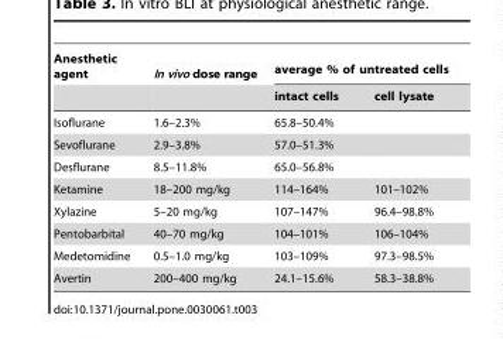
<table><thead><tr><td rowspan="2">Anesthetic agent</td><td rowspan="2">In vivo dose range</td><td colspan="2">average % of untreated cells</td></tr><tr><td>intact cells</td><td>cell lysate</td></tr></thead><tbody><tr><td>Isoflurane</td><td>1.6–2.3%</td><td>65.8–50.4%</td><td></td></tr><tr><td>Sevoflurane</td><td>2.9–3.8%</td><td>57.0–51.3%</td><td></td></tr><tr><td>Desflurane</td><td>8.5–11.8%</td><td>65.0–56.8%</td><td></td></tr><tr><td>Ketamine</td><td>18–200 mg/kg</td><td>114–164%</td><td>101–102%</td></tr><tr><td>Xylazine</td><td>5–20 mg/kg</td><td>107–147%</td><td>96.4–98.8%</td></tr><tr><td>Pentobarbital</td><td>40–70 mg/kg</td><td>104–101%</td><td>106–104%</td></tr><tr><td>Medetomidine</td><td>0.5–1.0 mg/kg</td><td>103–109%</td><td>97.3–98.5%</td></tr><tr><td>Avertin</td><td>200–400 mg/kg</td><td>24.1–15.6%</td><td>58.3–38.8%</td></tr></tbody></table>